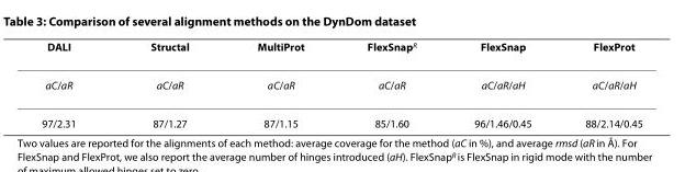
<table><thead><tr><td>DALI</td><td>Structal</td><td>MultiProt</td><td>FlexSnap<sup>R</sup></td><td>FlexSnap</td><td>FlexProt</td></tr></thead><tbody><tr><td>aC/aR</td><td>aC/aR</td><td>aC/aR</td><td>aC/aR</td><td>aC/aR/aH</td><td>aC/aR/aH</td></tr><tr><td>97/2.31</td><td>87/1.27</td><td>87/1.15</td><td>85/1.60</td><td>96/1.46/0.45</td><td>88/2.14/0.45</td></tr></tbody></table>